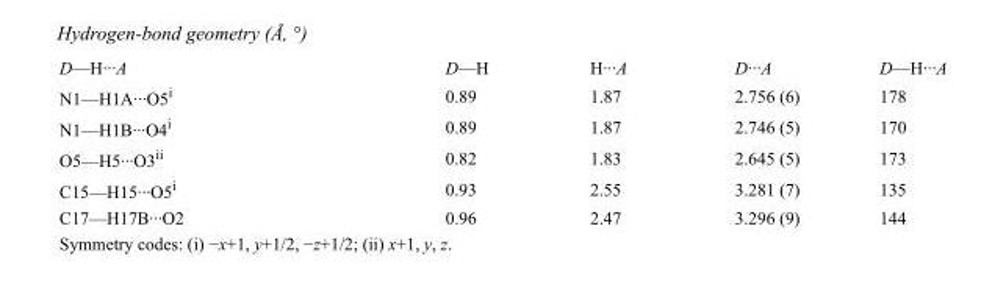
<table><tbody><tr><td>D—H···A</td><td>D—H</td><td>H···A</td><td>D···A</td><td>D—H···A</td></tr><tr><td>N1—H1A···O5<sup>i</sup></td><td>0.89</td><td>1.87</td><td>2.756 (6)</td><td>178</td></tr><tr><td>N1—H1B···O4<sup>i</sup></td><td>0.89</td><td>1.87</td><td>2.746 (5)</td><td>170</td></tr><tr><td>O5—H5···O3<sup>ii</sup></td><td>0.82</td><td>1.83</td><td>2.645 (5)</td><td>173</td></tr><tr><td>C15—H15···O5<sup>i</sup></td><td>0.93</td><td>2.55</td><td>3.281 (7)</td><td>135</td></tr><tr><td>C17—H17B···O2</td><td>0.96</td><td>2.47</td><td>3.296 (9)</td><td>144</td></tr></tbody></table>